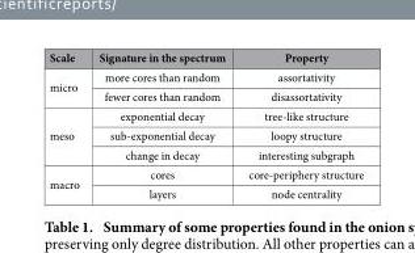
<table><thead><tr><td>Scale</td><td>Signature in the spectrum</td><td>Property</td></tr></thead><tbody><tr><td rowspan="2">micro</td><td>more cores than random</td><td>assortativity</td></tr><tr><td>fewer cores than random</td><td>disassortativity</td></tr><tr><td rowspan="3">meso</td><td>exponential decay</td><td>tree-like structure</td></tr><tr><td>sub-exponential decay</td><td>loopy structure</td></tr><tr><td>change in decay</td><td>interesting subgraph</td></tr><tr><td rowspan="2">macro</td><td>cores</td><td>core-periphery structure</td></tr><tr><td>layers</td><td>node centrality</td></tr></tbody></table>